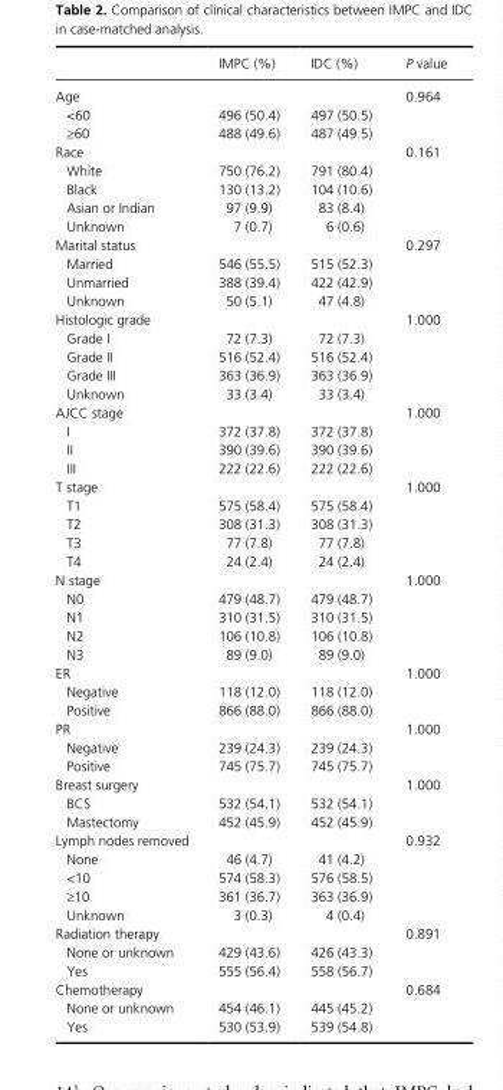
<table><thead><tr><td></td><td>IMPC (%)</td><td>IDC (%)</td><td>P value</td></tr></thead><tbody><tr><td>Age</td><td></td><td></td><td>0.964</td></tr><tr><td>&lt;60</td><td>496 (50.4)</td><td>497 (50.5)</td><td></td></tr><tr><td>≥60</td><td>488 (49.6)</td><td>487 (49.5)</td><td></td></tr><tr><td>Race</td><td></td><td></td><td>0.161</td></tr><tr><td>White</td><td>750 (76.2)</td><td>791 (80.4)</td><td></td></tr><tr><td>Black</td><td>130 (13.2)</td><td>104 (10.6)</td><td></td></tr><tr><td>Asian or Indian</td><td>97 (9.9)</td><td>83 (8.4)</td><td></td></tr><tr><td>Unknown</td><td>7 (0.7)</td><td>6 (0.6)</td><td></td></tr><tr><td>Marital status</td><td></td><td></td><td>0.297</td></tr><tr><td>Married</td><td>546 (55.5)</td><td>515 (52.3)</td><td></td></tr><tr><td>Unmarried</td><td>388 (39.4)</td><td>422 (42.9)</td><td></td></tr><tr><td>Unknown</td><td>50 (5.1)</td><td>47 (4.8)</td><td></td></tr><tr><td>Histologic grade</td><td></td><td></td><td>1.000</td></tr><tr><td>Grade I</td><td>72 (7.3)</td><td>72 (7.3)</td><td></td></tr><tr><td>Grade II</td><td>516 (52.4)</td><td>516 (52.4)</td><td></td></tr><tr><td>Grade III</td><td>363 (36.9)</td><td>363 (36.9)</td><td></td></tr><tr><td>Unknown</td><td>33 (3.4)</td><td>33 (3.4)</td><td></td></tr><tr><td>AJCC stage</td><td></td><td></td><td>1.000</td></tr><tr><td>I</td><td>372 (37.8)</td><td>372 (37.8)</td><td></td></tr><tr><td>II</td><td>390 (39.6)</td><td>390 (39.6)</td><td></td></tr><tr><td>III</td><td>222 (22.6)</td><td>222 (22.6)</td><td></td></tr><tr><td>T stage</td><td></td><td></td><td>1.000</td></tr><tr><td>T1</td><td>575 (58.4)</td><td>575 (58.4)</td><td></td></tr><tr><td>T2</td><td>308 (31.3)</td><td>308 (31.3)</td><td></td></tr><tr><td>T3</td><td>77 (7.8)</td><td>77 (7.8)</td><td></td></tr><tr><td>T4</td><td>24 (2.4)</td><td>24 (2.4)</td><td></td></tr><tr><td>N stage</td><td></td><td></td><td>1.000</td></tr><tr><td>N0</td><td>479 (48.7)</td><td>479 (48.7)</td><td></td></tr><tr><td>N1</td><td>310 (31.5)</td><td>310 (31.5)</td><td></td></tr><tr><td>N2</td><td>106 (10.8)</td><td>106 (10.8)</td><td></td></tr><tr><td>N3</td><td>89 (9.0)</td><td>89 (9.0)</td><td></td></tr><tr><td>ER</td><td></td><td></td><td>1.000</td></tr><tr><td>Negative</td><td>118 (12.0)</td><td>118 (12.0)</td><td></td></tr><tr><td>Positive</td><td>866 (88.0)</td><td>866 (88.0)</td><td></td></tr><tr><td>PR</td><td></td><td></td><td>1.000</td></tr><tr><td>Negative</td><td>239 (24.3)</td><td>239 (24.3)</td><td></td></tr><tr><td>Positive</td><td>745 (75.7)</td><td>745 (75.7)</td><td></td></tr><tr><td>Breast surgery</td><td></td><td></td><td>1.000</td></tr><tr><td>BCS</td><td>532 (54.1)</td><td>532 (54.1)</td><td></td></tr><tr><td>Mastectomy</td><td>452 (45.9)</td><td>452 (45.9)</td><td></td></tr><tr><td>Lymph nodes removed</td><td></td><td></td><td>0.932</td></tr><tr><td>None</td><td>46 (4.7)</td><td>41 (4.2)</td><td></td></tr><tr><td>&lt;10</td><td>574 (58.3)</td><td>576 (58.5)</td><td></td></tr><tr><td>≥10</td><td>361 (36.7)</td><td>363 (36.9)</td><td></td></tr><tr><td>Unknown</td><td>3 (0.3)</td><td>4 (0.4)</td><td></td></tr><tr><td>Radiation therapy</td><td></td><td></td><td>0.891</td></tr><tr><td>None or unknown</td><td>429 (43.6)</td><td>426 (43.3)</td><td></td></tr><tr><td>Yes</td><td>555 (56.4)</td><td>558 (56.7)</td><td></td></tr><tr><td>Chemotherapy</td><td></td><td></td><td>0.684</td></tr><tr><td>None or unknown</td><td>454 (46.1)</td><td>445 (45.2)</td><td></td></tr><tr><td>Yes</td><td>530 (53.9)</td><td>539 (54.8)</td><td></td></tr></tbody></table>